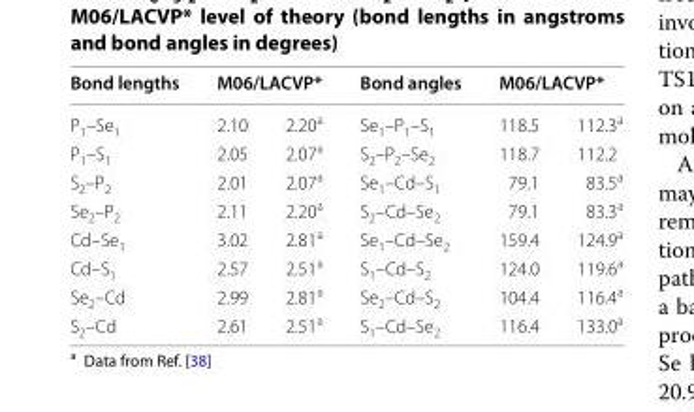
<table><thead><tr><td rowspan="2">Bond lengths P<sub>1</sub>–Se<sub>1</sub></td><td colspan="2">M06/LACVP*</td><td rowspan="2">Bond angles Se<sub>1</sub>–P<sub>1</sub>–S<sub>1</sub></td><td colspan="2">M06/LACVP*</td></tr><tr><td>2.10</td><td>2.20<sup>a</sup></td><td>118.5</td><td>112.3<sup>a</sup></td></tr></thead><tbody><tr><td>P<sub>1</sub>–S<sub>1</sub></td><td>2.05</td><td>2.07<sup>a</sup></td><td>S<sub>2</sub>–P<sub>2</sub>–Se<sub>2</sub></td><td>118.7</td><td>112.2</td></tr><tr><td>S<sub>2</sub>–P<sub>2</sub></td><td>2.01</td><td>2.07<sup>a</sup></td><td>Se<sub>1</sub>–Cd–S<sub>1</sub></td><td>79.1</td><td>83.5<sup>a</sup></td></tr><tr><td>Se<sub>2</sub>–P<sub>2</sub></td><td>2.11</td><td>2.20<sup>a</sup></td><td>S<sub>2</sub>–Cd–Se<sub>2</sub></td><td>79.1</td><td>83.3<sup>a</sup></td></tr><tr><td>Cd–Se<sub>1</sub></td><td>3.02</td><td>2.81<sup>a</sup></td><td>Se<sub>1</sub>–Cd–Se<sub>2</sub></td><td>159.4</td><td>124.9<sup>a</sup></td></tr><tr><td>Cd–S<sub>1</sub></td><td>2.57</td><td>2.51<sup>a</sup></td><td>S<sub>1</sub>–Cd–S<sub>2</sub></td><td>124.0</td><td>119.6<sup>a</sup></td></tr><tr><td>Se<sub>2</sub>–Cd</td><td>2.99</td><td>2.81<sup>a</sup></td><td>Se<sub>2</sub>–Cd–S<sub>2</sub></td><td>104.4</td><td>116.4<sup>a</sup></td></tr><tr><td>S<sub>2</sub>–Cd</td><td>2.61</td><td>2.51<sup>a</sup></td><td>S<sub>1</sub>–Cd–Se<sub>2</sub></td><td>116.4</td><td>133.0<sup>a</sup></td></tr></tbody></table>